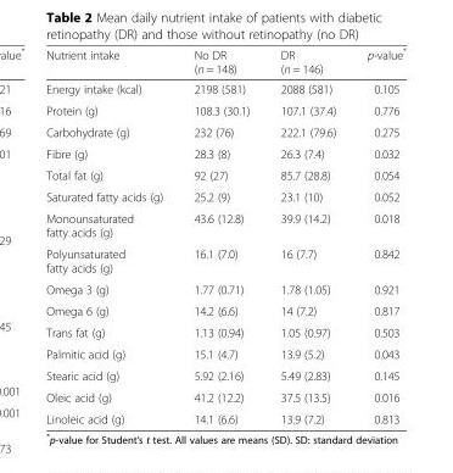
<table><thead><tr><td>Nutrient intake</td><td>No DR (n = 148)</td><td>DR (n = 146)</td><td>p-value*</td></tr></thead><tbody><tr><td>Energy intake (kcal)</td><td>2198 (581)</td><td>2088 (581)</td><td>0.105</td></tr><tr><td>Protein (g)</td><td>108.3 (30.1)</td><td>107.1 (37.4)</td><td>0.776</td></tr><tr><td>Carbohydrate (g)</td><td>232 (76)</td><td>222.1 (79.6)</td><td>0.275</td></tr><tr><td>Fibre (g)</td><td>28.3 (8)</td><td>26.3 (7.4)</td><td>0.032</td></tr><tr><td>Total fat (g)</td><td>92 (27)</td><td>85.7 (28.8)</td><td>0.054</td></tr><tr><td>Saturated fatty acids (g)</td><td>25.2 (9)</td><td>23.1 (10)</td><td>0.052</td></tr><tr><td>Monounsaturated fatty acids (g)</td><td>43.6 (12.8)</td><td>39.9 (14.2)</td><td>0.018</td></tr><tr><td>Polyunsaturated fatty acids (g)</td><td>16.1 (7.0)</td><td>16 (7.7)</td><td>0.842</td></tr><tr><td>Omega 3 (g)</td><td>1.77 (0.71)</td><td>1.78 (1.05)</td><td>0.921</td></tr><tr><td>Omega 6 (g)</td><td>14.2 (6.6)</td><td>14 (7.2)</td><td>0.817</td></tr><tr><td>Trans fat (g)</td><td>1.13 (0.94)</td><td>1.05 (0.97)</td><td>0.503</td></tr><tr><td>Palmitic acid (g)</td><td>15.1 (4.7)</td><td>13.9 (5.2)</td><td>0.043</td></tr><tr><td>Stearic acid (g)</td><td>5.92 (2.16)</td><td>5.49 (2.83)</td><td>0.145</td></tr><tr><td>Oleic acid (g)</td><td>41.2 (12.2)</td><td>37.5 (13.5)</td><td>0.016</td></tr><tr><td>Linoleic acid (g)</td><td>14.1 (6.6)</td><td>13.9 (7.2)</td><td>0.813</td></tr></tbody></table>